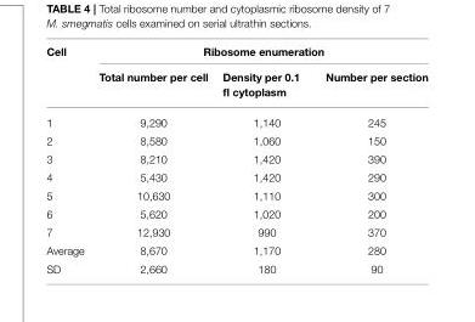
<table><thead><tr><td rowspan="2">Cell</td><td colspan="3">Ribosome enumeration</td></tr><tr><td>Total number per cell</td><td>Density per 0.1 fl cytoplasm</td><td>Number per section</td></tr></thead><tbody><tr><td>1</td><td>9,290</td><td>1,140</td><td>245</td></tr><tr><td>2</td><td>8,580</td><td>1,060</td><td>150</td></tr><tr><td>3</td><td>8,210</td><td>1,420</td><td>390</td></tr><tr><td>4</td><td>5,430</td><td>1,420</td><td>290</td></tr><tr><td>5</td><td>10,630</td><td>1,110</td><td>300</td></tr><tr><td>6</td><td>5,620</td><td>1,020</td><td>200</td></tr><tr><td>7</td><td>12,930</td><td>990</td><td>370</td></tr><tr><td>Average</td><td>8,670</td><td>1,170</td><td>280</td></tr><tr><td>SD</td><td>2,660</td><td>180</td><td>90</td></tr></tbody></table>